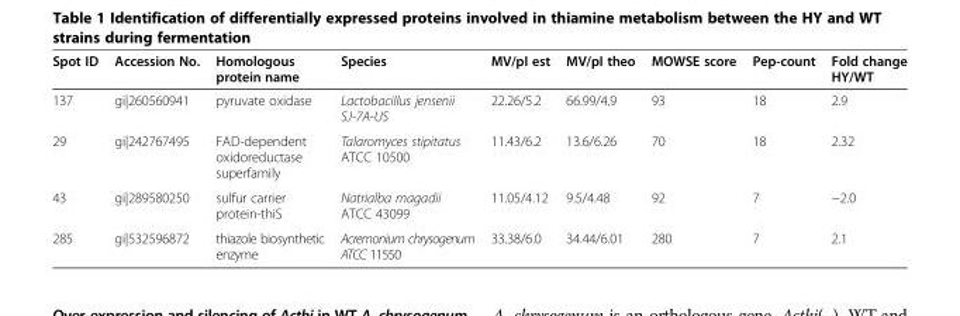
<table><thead><tr><td>Spot ID</td><td>Accession No.</td><td>Homologous protein name</td><td>Species</td><td>MV/pI est</td><td>MV/pI theo</td><td>MOWSE score</td><td>Pep-count</td><td>Fold change HY/WT</td></tr></thead><tbody><tr><td>137</td><td>gi|260560941</td><td>pyruvate oxidase</td><td>Lactobacillus jensenii SJ-7A-US</td><td>22.26/5.2</td><td>66.99/4.9</td><td>93</td><td>18</td><td>2.9</td></tr><tr><td>29</td><td>gi|242767495</td><td>FAD-dependent oxidoreductase superfamily</td><td>Talaromyces stipitatus ATCC 10500</td><td>11.43/6.2</td><td>13.6/6.26</td><td>70</td><td>18</td><td>2.32</td></tr><tr><td>43</td><td>gi|289580250</td><td>sulfur carrier protein-thiS</td><td>Natrialba magadii ATCC 43099</td><td>11.05/4.12</td><td>9.5/4.48</td><td>92</td><td>7</td><td>−2.0</td></tr><tr><td>285</td><td>gi|532596872</td><td>thiazole biosynthetic enzyme</td><td>Acremonium chrysogenum ATCC 11550</td><td>33.38/6.0</td><td>34.44/6.01</td><td>280</td><td>7</td><td>2.1</td></tr></tbody></table>